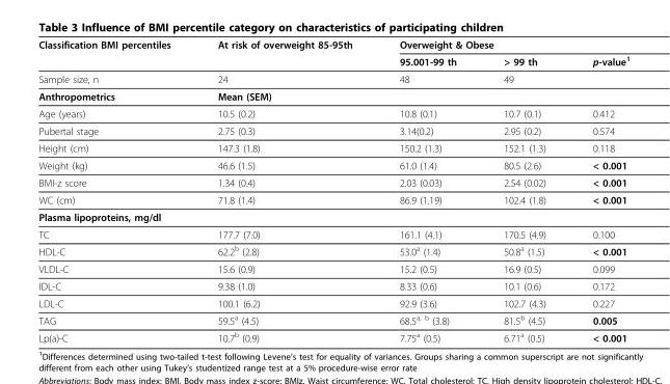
<table><thead><tr><td rowspan="2">Classification BMI percentiles</td><td rowspan="2">At risk of overweight 85-95th</td><td colspan="2">Overweight &amp; Obese</td><td rowspan="2">p-value<sup>1</sup></td></tr><tr><td>95.001-99 th</td><td>&gt; 99 th</td></tr></thead><tbody><tr><td>Sample size, n</td><td>24</td><td>48</td><td>49</td><td></td></tr><tr><td>Anthropometrics</td><td colspan="3">Mean (SEM)</td><td></td></tr><tr><td>Age (years)</td><td>10.5 (0.2)</td><td>10.8 (0.1)</td><td>10.7 (0.1)</td><td>0.412</td></tr><tr><td>Pubertal stage</td><td>2.75 (0.3)</td><td>3.14(0.2)</td><td>2.95 (0.2)</td><td>0.574</td></tr><tr><td>Height (cm)</td><td>147.3 (1.8)</td><td>150.2 (1.3)</td><td>152.1 (1.3)</td><td>0.118</td></tr><tr><td>Weight (kg)</td><td>46.6 (1.5)</td><td>61.0 (1.4)</td><td>80.5 (2.6)</td><td>&lt; 0.001</td></tr><tr><td>BMI-z score</td><td>1.34 (0.4)</td><td>2.03 (0.03)</td><td>2.54 (0.02)</td><td>&lt; 0.001</td></tr><tr><td>WC (cm)</td><td>71.8 (1.4)</td><td>86.9 (1.19)</td><td>102.4 (1.8)</td><td>&lt; 0.001</td></tr><tr><td colspan="5">Plasma lipoproteins, mg/dl</td></tr><tr><td>TC</td><td>177.7 (7.0)</td><td>161.1 (4.1)</td><td>170.5 (4.9)</td><td>0.100</td></tr><tr><td>HDL-C</td><td>62.2<sup>b</sup> (2.8)</td><td>53.0<sup>a</sup> (1.4)</td><td>50.8<sup>a</sup> (1.5)</td><td>&lt; 0.001</td></tr><tr><td>VLDL-C</td><td>15.6 (0.9)</td><td>15.2 (0.5)</td><td>16.9 (0.5)</td><td>0.099</td></tr><tr><td>IDL-C</td><td>9.38 (1.0)</td><td>8.33 (0.6)</td><td>10.1 (0.6)</td><td>0.172</td></tr><tr><td>LDL-C</td><td>100.1 (6.2)</td><td>92.9 (3.6)</td><td>102.7 (4.3)</td><td>0.227</td></tr><tr><td>TAG</td><td>59.5<sup>a</sup> (4.5)</td><td>68.5<sup>a, b</sup> (3.8)</td><td>81.5<sup>b</sup> (4.5)</td><td>0.005</td></tr><tr><td>Lp(a)-C</td><td>10.7<sup>b</sup> (0.9)</td><td>7.75<sup>a</sup> (0.5)</td><td>6.71<sup>a</sup> (0.5)</td><td>&lt; 0.001</td></tr></tbody></table>